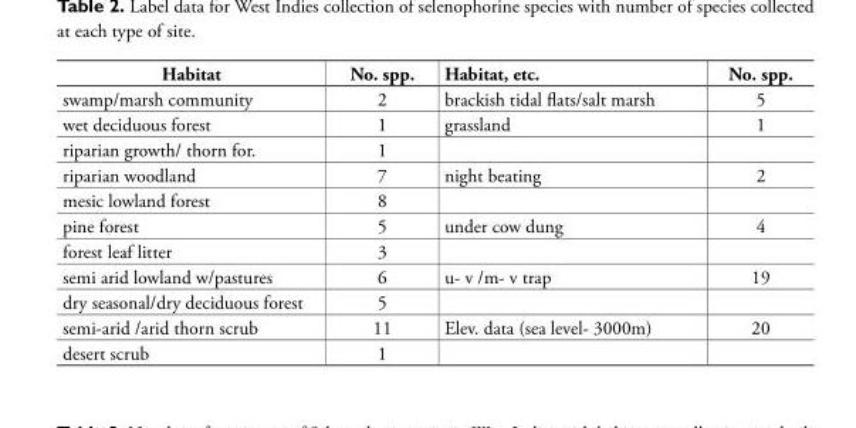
<table><tbody><tr><td>Habitat</td><td>No. spp.</td><td>Habitat, etc.</td><td>No. spp.</td></tr><tr><td>swamp/marsh community</td><td>2</td><td>brackish tidal flats/salt marsh</td><td>5</td></tr><tr><td>wet deciduous forest</td><td>1</td><td>grassland</td><td>1</td></tr><tr><td>riparian growth/ thorn for.</td><td>1</td><td></td><td></td></tr><tr><td>riparian woodland</td><td>7</td><td>night beating</td><td>2</td></tr><tr><td>mesic lowland forest</td><td>8</td><td></td><td></td></tr><tr><td>pine forest</td><td>5</td><td>under cow dung</td><td>4</td></tr><tr><td>forest leaf litter</td><td>3</td><td></td><td></td></tr><tr><td>semi arid lowland w/pastures</td><td>6</td><td>u- v /m- v trap</td><td>19</td></tr><tr><td>dry seasonal/dry deciduous forest</td><td>5</td><td></td><td></td></tr><tr><td>semi-arid /arid thorn scrub</td><td>11</td><td>Elev. data (sea level- 3000m)</td><td>20</td></tr><tr><td>desert scrub</td><td>1</td><td></td><td></td></tr></tbody></table>